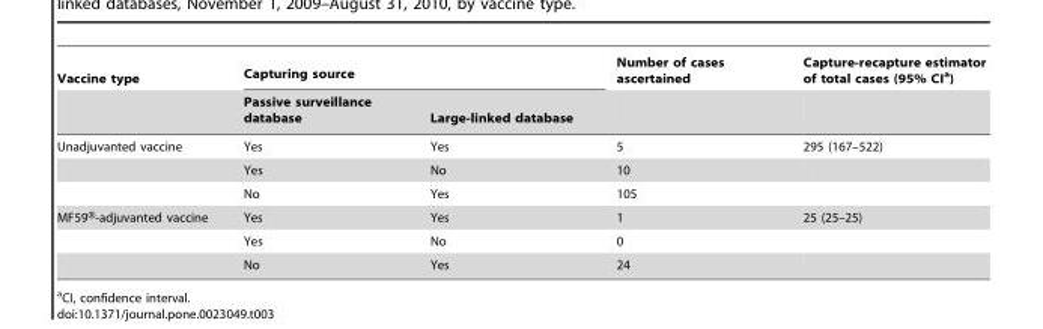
<table><thead><tr><td rowspan="2">Vaccine type</td><td colspan="2">Capturing source</td><td rowspan="2">Number of cases ascertained</td><td rowspan="2">Capture-recapture estimator of total cases (95% CI<sup>a</sup>)</td></tr><tr><td>Passive surveillance database</td><td>Large-linked database</td></tr></thead><tbody><tr><td rowspan="3">Unadjuvanted vaccine</td><td>Yes</td><td>Yes</td><td>5</td><td>295 (167–522)</td></tr><tr><td>Yes</td><td>No</td><td>10</td><td></td></tr><tr><td>No</td><td>Yes</td><td>105</td><td></td></tr><tr><td rowspan="3">MF59®-adjuvanted vaccine</td><td>Yes</td><td>Yes</td><td>1</td><td>25 (25–25)</td></tr><tr><td>Yes</td><td>No</td><td>0</td><td></td></tr><tr><td>No</td><td>Yes</td><td>24</td><td></td></tr></tbody></table>